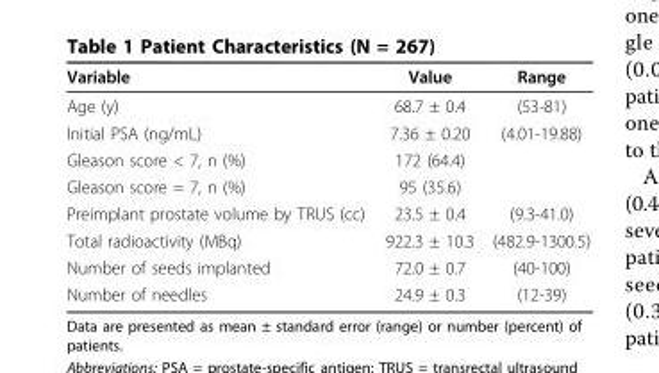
<table><thead><tr><td>Variable</td><td>Value</td><td>Range</td></tr></thead><tbody><tr><td>Age (y)</td><td>68.7 ± 0.4</td><td>(53-81)</td></tr><tr><td>Initial PSA (ng/mL)</td><td>7.36 ± 0.20</td><td>(4.01-19.88)</td></tr><tr><td>Gleason score &lt; 7, n (%)</td><td>172 (64.4)</td><td></td></tr><tr><td>Gleason score = 7, n (%)</td><td>95 (35.6)</td><td></td></tr><tr><td>Preimplant prostate volume by TRUS (cc)</td><td>23.5 ± 0.4</td><td>(9.3-41.0)</td></tr><tr><td>Total radioactivity (MBq)</td><td>922.3 ± 10.3</td><td>(482.9-1300.5)</td></tr><tr><td>Number of seeds implanted</td><td>72.0 ± 0.7</td><td>(40-100)</td></tr><tr><td>Number of needles</td><td>24.9 ± 0.3</td><td>(12-39)</td></tr></tbody></table>